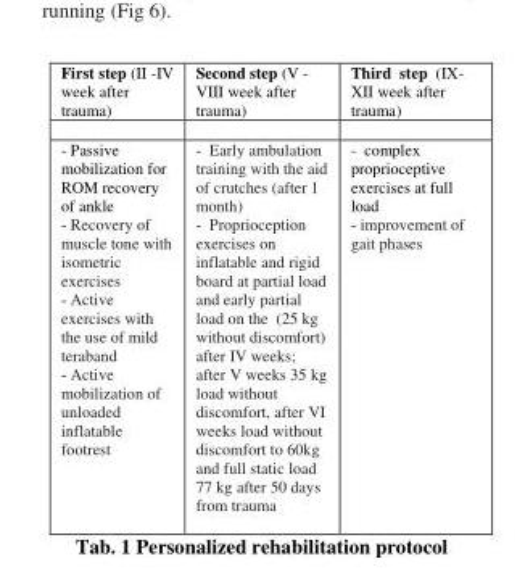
<table><thead><tr><td>First step (II -IV week after trauma)</td><td>Second step (V - VIII week after trauma)</td><td>Third step (IX- XII week after trauma)</td></tr></thead><tbody><tr><td>- Passive mobilization for ROM recovery of ankle - Recovery of muscle tone with isometric exercises - Active exercises with the use of mild teraband - Active mobilization of unloaded inflatable footrest</td><td>- Early ambulation training with the aid of crutches (after 1 month) - Proprioception exercises on inflatable and rigid board at partial load and early partial load on the (25 kg without discomfort) after IV weeks; after V weeks 35 kg load without discomfort, after VI weeks load without discomfort to 60kg and full static load 77 kg after 50 days from trauma</td><td>- complex proprioceptive exercises at full load - improvement of gait phases</td></tr></tbody></table>